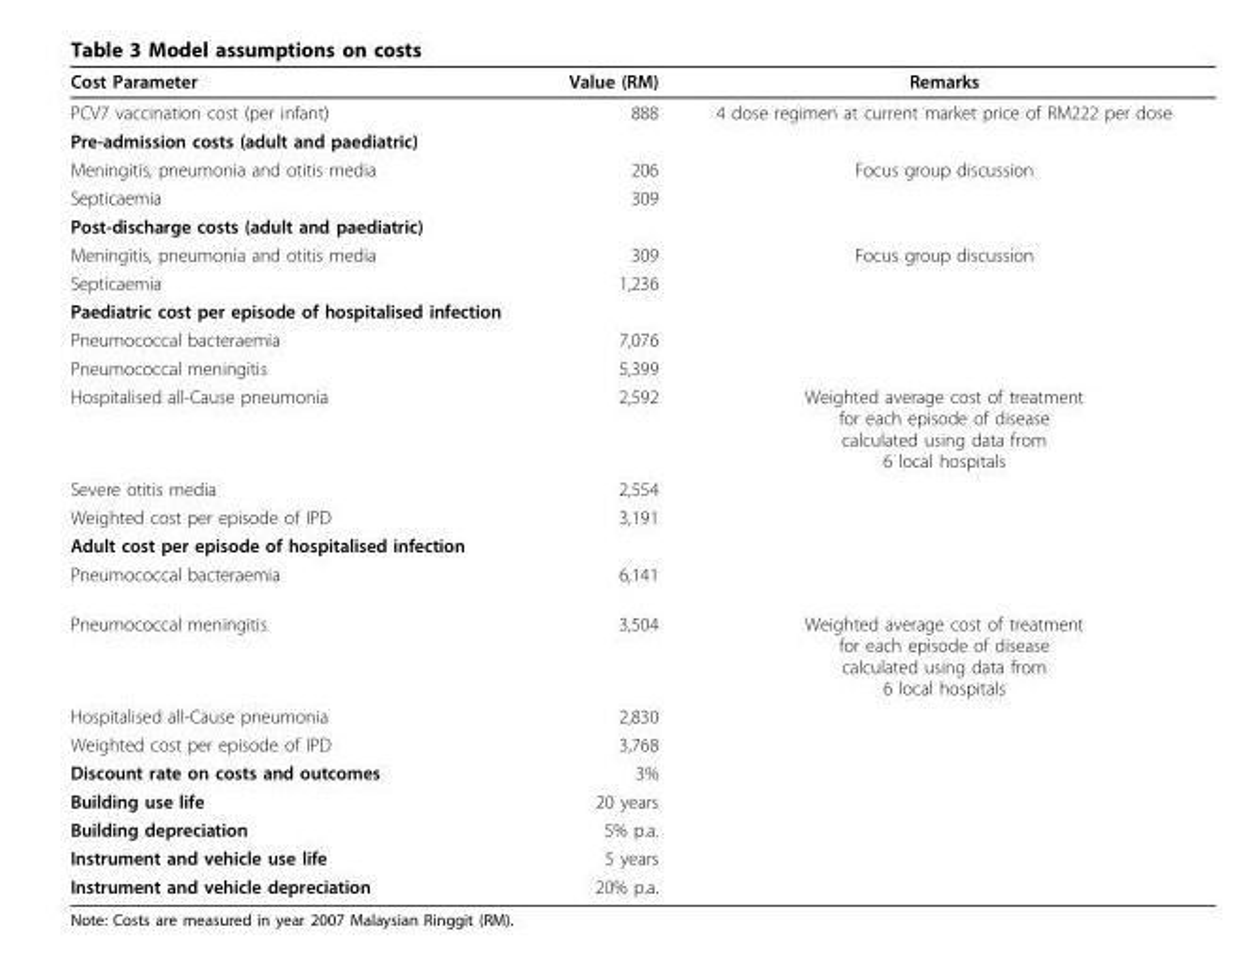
<table><thead><tr><td>Cost Parameter</td><td>Value (RM)</td><td>Remarks</td></tr></thead><tbody><tr><td>PCV7 vaccination cost (per infant)</td><td>888</td><td>4 dose regimen at current market price of RM222 per dose</td></tr><tr><td colspan="3">Pre-admission costs (adult and paediatric)</td></tr><tr><td>Meningitis, pneumonia and otitis media</td><td>206</td><td>Focus group discussion</td></tr><tr><td>Septicaemia</td><td>309</td><td></td></tr><tr><td colspan="3">Post-discharge costs (adult and paediatric)</td></tr><tr><td>Meningitis, pneumonia and otitis media</td><td>309</td><td>Focus group discussion</td></tr><tr><td>Septicaemia</td><td>1,236</td><td></td></tr><tr><td colspan="3">Paediatric cost per episode of hospitalised infection</td></tr><tr><td>Pneumococcal bacteraemia</td><td>7,076</td><td></td></tr><tr><td>Pneumococcal meningitis</td><td>5,399</td><td></td></tr><tr><td>Hospitalised all-Cause pneumonia</td><td>2,592</td><td>Weighted average cost of treatment for each episode of disease calculated using data from 6 local hospitals</td></tr><tr><td>Severe otitis media</td><td>2,554</td><td></td></tr><tr><td>Weighted cost per episode of IPD</td><td>3,191</td><td></td></tr><tr><td colspan="3">Adult cost per episode of hospitalised infection</td></tr><tr><td>Pneumococcal bacteraemia</td><td>6,141</td><td></td></tr><tr><td>Pneumococcal meningitis</td><td>3,504</td><td>Weighted average cost of treatment for each episode of disease calculated using data from 6 local hospitals</td></tr><tr><td>Hospitalised all-Cause pneumonia</td><td>2,830</td><td></td></tr><tr><td>Weighted cost per episode of IPD</td><td>3,768</td><td></td></tr><tr><td>Discount rate on costs and outcomes</td><td>3%</td><td></td></tr><tr><td>Building use life</td><td>20 years</td><td></td></tr><tr><td>Building depreciation</td><td>5% p.a.</td><td></td></tr><tr><td>Instrument and vehicle use life</td><td>5 years</td><td></td></tr><tr><td>Instrument and vehicle depreciation</td><td>20% p.a.</td><td></td></tr></tbody></table>